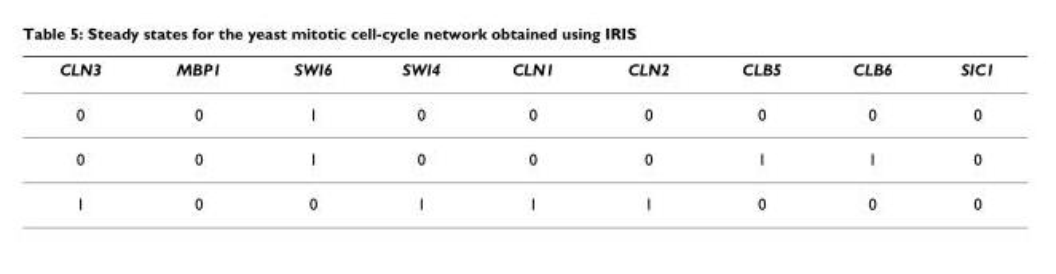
<table><thead><tr><td>CLN3</td><td>MBP1</td><td>SWI6</td><td>SWI4</td><td>CLN1</td><td>CLN2</td><td>CLB5</td><td>CLB6</td><td>SIC1</td></tr></thead><tbody><tr><td>0</td><td>0</td><td>1</td><td>0</td><td>0</td><td>0</td><td>0</td><td>0</td><td>0</td></tr><tr><td>0</td><td>0</td><td>1</td><td>0</td><td>0</td><td>0</td><td>1</td><td>1</td><td>0</td></tr><tr><td>1</td><td>0</td><td>0</td><td>1</td><td>1</td><td>1</td><td>0</td><td>0</td><td>0</td></tr></tbody></table>